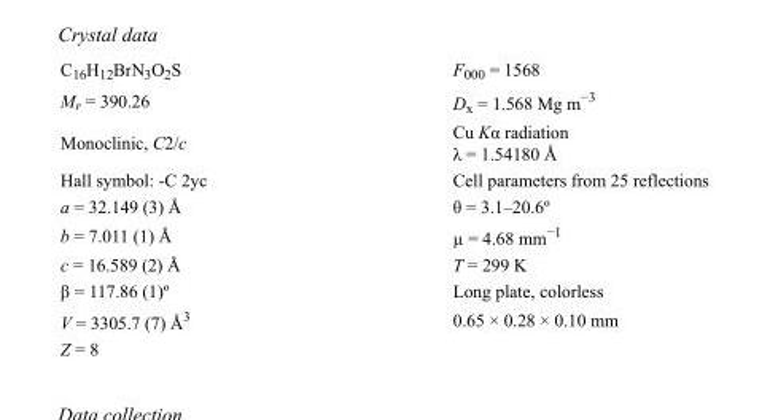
<table><tbody><tr><td>C<sub>16</sub>H<sub>12</sub>BrN<sub>3</sub>O<sub>2</sub>S</td><td>F000 = 1568</td></tr><tr><td>M<sub>r</sub> = 390.26</td><td>D<sub>x</sub> = 1.568 Mg m<sup>−3</sup></td></tr><tr><td>Monoclinic, C2/c</td><td>Cu Kα radiation λ = 1.54180 Å</td></tr><tr><td>Hall symbol: -C 2yc</td><td>Cell parameters from 25 reflections</td></tr><tr><td>a = 32.149 (3) Å</td><td>θ = 3.1–20.6º</td></tr><tr><td>b = 7.011 (1) Å</td><td>µ = 4.68 mm<sup>−1</sup></td></tr><tr><td>c = 16.589 (2) Å</td><td>T = 299 K</td></tr><tr><td>β = 117.86 (1)º</td><td>Long plate, colorless</td></tr><tr><td>V = 3305.7 (7) Å<sup>3</sup></td><td>0.65 × 0.28 × 0.10 mm</td></tr><tr><td>Z = 8</td><td></td></tr></tbody></table>